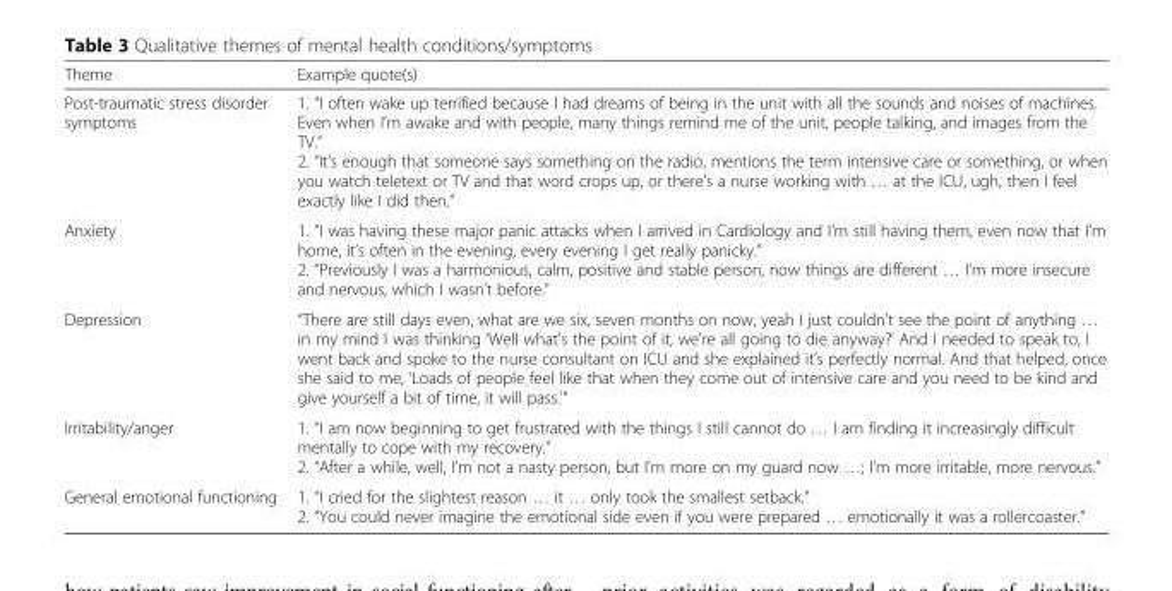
<table><thead><tr><td>Theme</td><td>Example quote(s)</td></tr></thead><tbody><tr><td>Post-traumatic stress disorder symptoms</td><td>1. “I often wake up terrified because I had dreams of being in the unit with all the sounds and noises of machines. Even when I’m awake and with people, many things remind me of the unit, people talking, and images from the TV.” 2. “It’s enough that someone says something on the radio, mentions the term intensive care or something, or when you watch teletext or TV and that word crops up, or there’s a nurse working with … at the ICU, ugh, then I feel exactly like I did then.”</td></tr><tr><td>Anxiety</td><td>1. “I was having these major panic attacks when I arrived in Cardiology and I’m still having them, even now that I’m home, it’s often in the evening, every evening I get really panicky.” 2. “Previously I was a harmonious, calm, positive and stable person, now things are different … I’m more insecure and nervous, which I wasn’t before.”</td></tr><tr><td>Depression</td><td>“There are still days even, what are we six, seven months on now, yeah I just couldn&#x27;t see the point of anything … in my mind I was thinking ‘Well what&#x27;s the point of it, we&#x27;re all going to die anyway?’ And I needed to speak to, I went back and spoke to the nurse consultant on ICU and she explained it’s perfectly normal. And that helped, once she said to me, ‘Loads of people feel like that when they come out of intensive care and you need to be kind and give yourself a bit of time, it will pass.’”</td></tr><tr><td>Irritability/anger</td><td>1. “I am now beginning to get frustrated with the things I still cannot do … I am finding it increasingly difficult mentally to cope with my recovery.” 2. “After a while, well, I’m not a nasty person, but I’m more on my guard now …; I’m more irritable, more nervous.”</td></tr><tr><td>General emotional functioning</td><td>1. “I cried for the slightest reason … it … only took the smallest setback.” 2. “You could never imagine the emotional side even if you were prepared … emotionally it was a rollercoaster.”</td></tr></tbody></table>